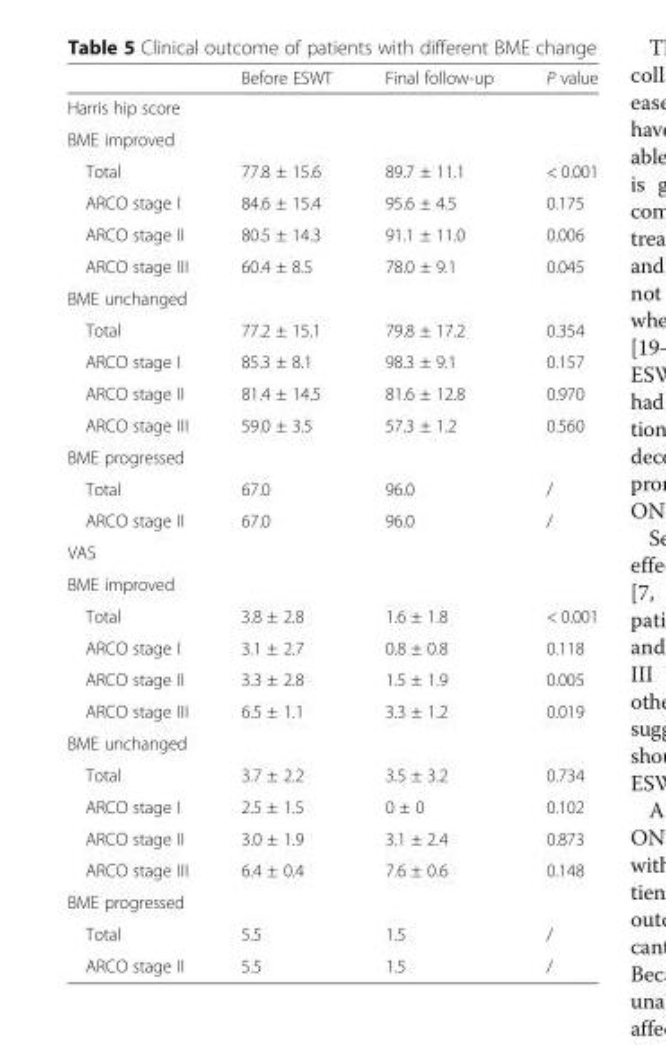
<table><thead><tr><td></td><td>Before ESWT</td><td>Final follow-up</td><td>P value</td></tr></thead><tbody><tr><td colspan="4">Harris hip score</td></tr><tr><td colspan="4">BME improved</td></tr><tr><td>Total</td><td>77.8 ± 15.6</td><td>89.7 ± 11.1</td><td>&lt; 0.001</td></tr><tr><td>ARCO stage I</td><td>84.6 ± 15.4</td><td>95.6 ± 4.5</td><td>0.175</td></tr><tr><td>ARCO stage II</td><td>80.5 ± 14.3</td><td>91.1 ± 11.0</td><td>0.006</td></tr><tr><td>ARCO stage III</td><td>60.4 ± 8.5</td><td>78.0 ± 9.1</td><td>0.045</td></tr><tr><td colspan="4">BME unchanged</td></tr><tr><td>Total</td><td>77.2 ± 15.1</td><td>79.8 ± 17.2</td><td>0.354</td></tr><tr><td>ARCO stage I</td><td>85.3 ± 8.1</td><td>98.3 ± 9.1</td><td>0.157</td></tr><tr><td>ARCO stage II</td><td>81.4 ± 14.5</td><td>81.6 ± 12.8</td><td>0.970</td></tr><tr><td>ARCO stage III</td><td>59.0 ± 3.5</td><td>57.3 ± 1.2</td><td>0.560</td></tr><tr><td colspan="4">BME progressed</td></tr><tr><td>Total</td><td>67.0</td><td>96.0</td><td>/</td></tr><tr><td>ARCO stage II</td><td>67.0</td><td>96.0</td><td>/</td></tr><tr><td colspan="4">VAS</td></tr><tr><td colspan="4">BME improved</td></tr><tr><td>Total</td><td>3.8 ± 2.8</td><td>1.6 ± 1.8</td><td>&lt; 0.001</td></tr><tr><td>ARCO stage I</td><td>3.1 ± 2.7</td><td>0.8 ± 0.8</td><td>0.118</td></tr><tr><td>ARCO stage II</td><td>3.3 ± 2.8</td><td>1.5 ± 1.9</td><td>0.005</td></tr><tr><td>ARCO stage III</td><td>6.5 ± 1.1</td><td>3.3 ± 1.2</td><td>0.019</td></tr><tr><td colspan="4">BME unchanged</td></tr><tr><td>Total</td><td>3.7 ± 2.2</td><td>3.5 ± 3.2</td><td>0.734</td></tr><tr><td>ARCO stage I</td><td>2.5 ± 1.5</td><td>0 ± 0</td><td>0.102</td></tr><tr><td>ARCO stage II</td><td>3.0 ± 1.9</td><td>3.1 ± 2.4</td><td>0.873</td></tr><tr><td>ARCO stage III</td><td>6.4 ± 0.4</td><td>7.6 ± 0.6</td><td>0.148</td></tr><tr><td colspan="4">BME progressed</td></tr><tr><td>Total</td><td>5.5</td><td>1.5</td><td>/</td></tr><tr><td>ARCO stage II</td><td>5.5</td><td>1.5</td><td>/</td></tr></tbody></table>